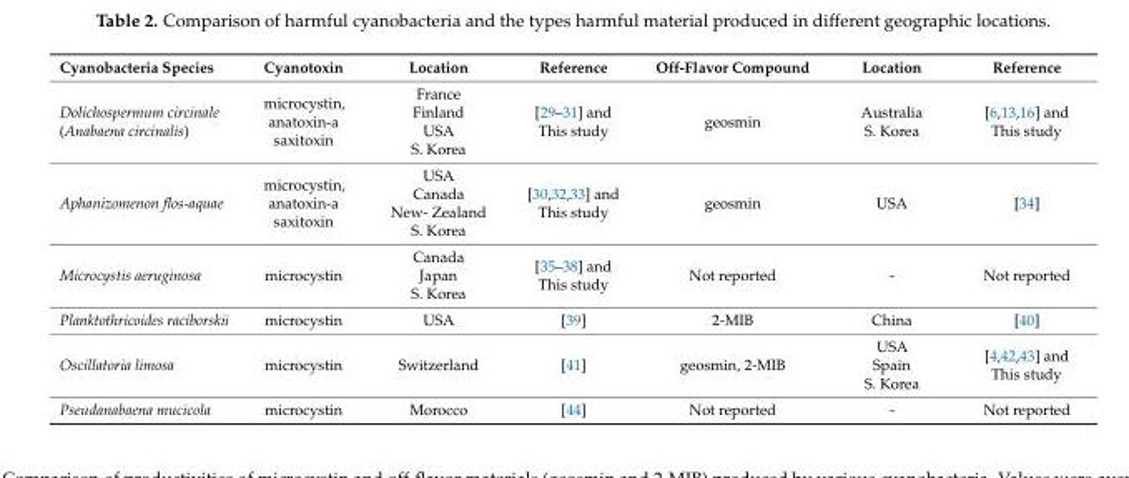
<table><thead><tr><td>Cyanobacteria Species</td><td>Cyanotoxin</td><td>Location</td><td>Reference</td><td>Off-Flavor Compound</td><td>Location</td><td>Reference</td></tr></thead><tbody><tr><td>Dolichospermum circinale (Anabaena circinalis)</td><td>microcystin, anatoxin-a saxitoxin</td><td>France Finland USA S. Korea</td><td>[29–31] and This study</td><td>geosmin</td><td>Australia S. Korea</td><td>[6,13,16] and This study</td></tr><tr><td>Aphanizomenon flos-aquae</td><td>microcystin, anatoxin-a saxitoxin</td><td>USA Canada New- Zealand S. Korea</td><td>[30,32,33] and This study</td><td>geosmin</td><td>USA</td><td>[34]</td></tr><tr><td>Microcystis aeruginosa</td><td>microcystin</td><td>Canada Japan S. Korea</td><td>[35–38] and This study</td><td>Not reported</td><td>-</td><td>Not reported</td></tr><tr><td>Planktothricoides raciborskii</td><td>microcystin</td><td>USA</td><td>[39]</td><td>2-MIB</td><td>China</td><td>[40]</td></tr><tr><td>Oscillatoria limosa</td><td>microcystin</td><td>Switzerland</td><td>[41]</td><td>geosmin, 2-MIB</td><td>USA Spain S. Korea</td><td>[4,42,43] and This study</td></tr><tr><td>Pseudanabaena mucicola</td><td>microcystin</td><td>Morocco</td><td>[44]</td><td>Not reported</td><td>-</td><td>Not reported</td></tr></tbody></table>